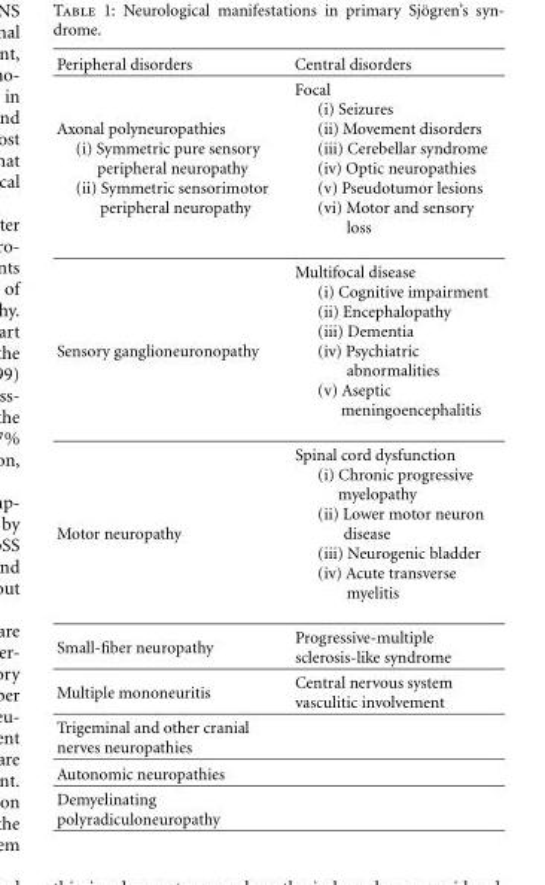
<table><thead><tr><td>Peripheral disorders</td><td>Central disorders</td></tr></thead><tbody><tr><td>Axonal polyneuropathies (i) Symmetric pure sensory peripheral neuropathy (ii) Symmetric sensorimotor peripheral neuropathy</td><td>Focal (i) Seizures (ii) Movement disorders (iii) Cerebellar syndrome (iv) Optic neuropathies (v) Pseudotumor lesions (vi) Motor and sensory loss</td></tr><tr><td>Sensory ganglioneuronopathy</td><td>Multifocal disease (i) Cognitive impairment (ii) Encephalopathy (iii) Dementia (iv) Psychiatric abnormalities (v) Aseptic meningoencephalitis</td></tr><tr><td>Motor neuropathy</td><td>Spinal cord dysfunction (i) Chronic progressive myelopathy (ii) Lower motor neuron disease (iii) Neurogenic bladder (iv) Acute transverse myelitis</td></tr><tr><td>Small-fiber neuropathy</td><td>Progressive-multiple sclerosis-like syndrome</td></tr><tr><td>Multiple mononeuritis</td><td>Central nervous system vasculitic involvement</td></tr><tr><td colspan="2">Trigeminal and other cranial nerves neuropathies</td></tr><tr><td colspan="2">Autonomic neuropathies</td></tr><tr><td>Demyelinating polyradiculoneuropathy</td><td></td></tr></tbody></table>